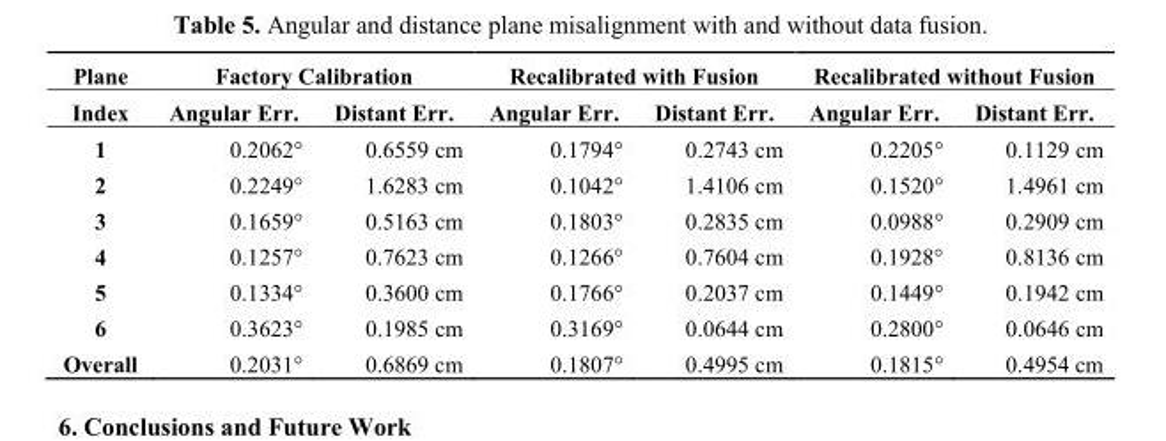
<table><thead><tr><td rowspan="2">Plane Index</td><td colspan="2">Factory Calibration</td><td colspan="2">Recalibrated with Fusion</td><td colspan="2">Recalibrated without Fusion</td></tr><tr><td>Angular Err.</td><td>Distant Err.</td><td>Angular Err.</td><td>Distant Err.</td><td>Angular Err.</td><td>Distant Err.</td></tr></thead><tbody><tr><td>1</td><td>0.2062°</td><td>0.6559 cm</td><td>0.1794°</td><td>0.2743 cm</td><td>0.2205°</td><td>0.1129 cm</td></tr><tr><td>2</td><td>0.2249°</td><td>1.6283 cm</td><td>0.1042°</td><td>1.4106 cm</td><td>0.1520°</td><td>1.4961 cm</td></tr><tr><td>3</td><td>0.1659°</td><td>0.5163 cm</td><td>0.1803°</td><td>0.2835 cm</td><td>0.0988°</td><td>0.2909 cm</td></tr><tr><td>4</td><td>0.1257°</td><td>0.7623 cm</td><td>0.1266°</td><td>0.7604 cm</td><td>0.1928°</td><td>0.8136 cm</td></tr><tr><td>5</td><td>0.1334°</td><td>0.3600 cm</td><td>0.1766°</td><td>0.2037 cm</td><td>0.1449°</td><td>0.1942 cm</td></tr><tr><td>6</td><td>0.3623°</td><td>0.1985 cm</td><td>0.3169°</td><td>0.0644 cm</td><td>0.2800°</td><td>0.0646 cm</td></tr><tr><td>Overall</td><td>0.2031°</td><td>0.6869 cm</td><td>0.1807°</td><td>0.4995 cm</td><td>0.1815°</td><td>0.4954 cm</td></tr></tbody></table>